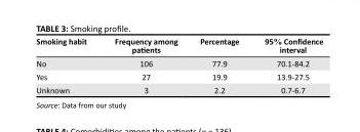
<table><thead><tr><td>Smoking habit</td><td>Frequency among patients</td><td>Percentage</td><td>95% Confidence interval</td></tr></thead><tbody><tr><td>No</td><td>106</td><td>77.9</td><td>70.1-84.2</td></tr><tr><td>Yes</td><td>27</td><td>19.9</td><td>13.9-27.5</td></tr><tr><td>Unknown</td><td>3</td><td>2.2</td><td>0.7-6.7</td></tr></tbody></table>